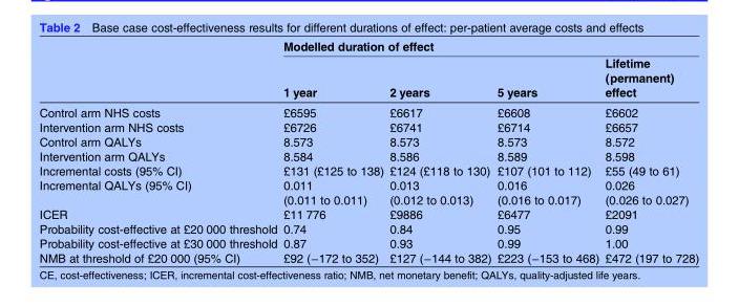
<table><thead><tr><td rowspan="2"></td><td colspan="4">Modelled duration of effect</td></tr><tr><td>1 year</td><td>2 years</td><td>5 years</td><td>Lifetime (permanent) effect</td></tr></thead><tbody><tr><td>Control arm NHS costs</td><td>£6595</td><td>£6617</td><td>£6608</td><td>£6602</td></tr><tr><td>Intervention arm NHS costs</td><td>£6726</td><td>£6741</td><td>£6714</td><td>£6657</td></tr><tr><td>Control arm QALYs</td><td>8.573</td><td>8.573</td><td>8.573</td><td>8.572</td></tr><tr><td>Intervention arm QALYs</td><td>8.584</td><td>8.586</td><td>8.589</td><td>8.598</td></tr><tr><td>Incremental costs (95% CI)</td><td>£131 (£125 to 138)</td><td>£124 (£118 to 130)</td><td>£107 (101 to 112)</td><td>£55 (49 to 61)</td></tr><tr><td>Incremental QALYs (95% CI)</td><td>0.011 (0.011 to 0.011)</td><td>0.013 (0.012 to 0.013)</td><td>0.016 (0.016 to 0.017)</td><td>0.026 (0.026 to 0.027)</td></tr><tr><td>ICER</td><td>£11 776</td><td>£9886</td><td>£6477</td><td>£2091</td></tr><tr><td>Probability cost-effective at £20 000 threshold</td><td>0.74</td><td>0.84</td><td>0.95</td><td>0.99</td></tr><tr><td>Probability cost-effective at £30 000 threshold</td><td>0.87</td><td>0.93</td><td>0.99</td><td>1.00</td></tr><tr><td>NMB at threshold of £20 000 (95% CI)</td><td>£92 (−172 to 352)</td><td>£127 (−144 to 382)</td><td>£223 (−153 to 468)</td><td>£472 (197 to 728)</td></tr></tbody></table>